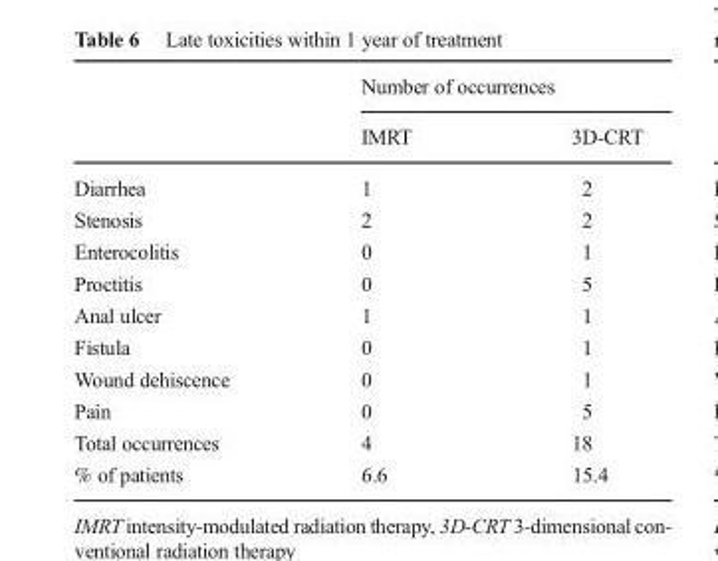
<table><thead><tr><td rowspan="2"></td><td colspan="2">Number of occurrences</td></tr><tr><td>IMRT</td><td>3D-CRT</td></tr></thead><tbody><tr><td>Diarrhea</td><td>1</td><td>2</td></tr><tr><td>Stenosis</td><td>2</td><td>2</td></tr><tr><td>Enterocolitis</td><td>0</td><td>1</td></tr><tr><td>Proctitis</td><td>0</td><td>5</td></tr><tr><td>Anal ulcer</td><td>1</td><td>1</td></tr><tr><td>Fistula</td><td>0</td><td>1</td></tr><tr><td>Wound dehiscence</td><td>0</td><td>1</td></tr><tr><td>Pain</td><td>0</td><td>5</td></tr><tr><td>Total occurrences</td><td>4</td><td>18</td></tr><tr><td>% of patients</td><td>6.6</td><td>15.4</td></tr></tbody></table>